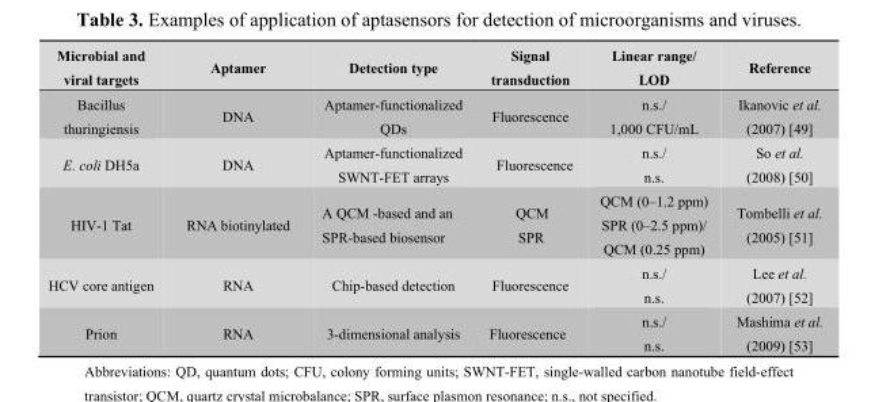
<table><thead><tr><td>Microbial and viral targets</td><td>Aptamer</td><td>Detection type</td><td>Signal transduction</td><td>Linear range/ LOD</td><td>Reference</td></tr></thead><tbody><tr><td>Bacillus thuringiensis</td><td>DNA</td><td>Aptamer-functionalized QDs</td><td>Fluorescence</td><td>n.s./ 1,000 CFU/mL</td><td>Ikanovic et al. (2007) [49]</td></tr><tr><td>E. coli DH5a</td><td>DNA</td><td>Aptamer-functionalized SWNT-FET arrays</td><td>Fluorescence</td><td>n.s./ n.s.</td><td>So et al. (2008) [50]</td></tr><tr><td>HIV-1 Tat</td><td>RNA biotinylated</td><td>A QCM -based and an SPR-based biosensor</td><td>QCM SPR</td><td>QCM (0–1.2 ppm) SPR (0–2.5 ppm)/ QCM (0.25 ppm)</td><td>Tombelli et al. (2005) [51]</td></tr><tr><td>HCV core antigen</td><td>RNA</td><td>Chip-based detection</td><td>Fluorescence</td><td>n.s./ n.s.</td><td>Lee et al. (2007) [52]</td></tr><tr><td>Prion</td><td>RNA</td><td>3-dimensional analysis</td><td>Fluorescence</td><td>n.s./ n.s.</td><td>Mashima et al. (2009) [53]</td></tr></tbody></table>